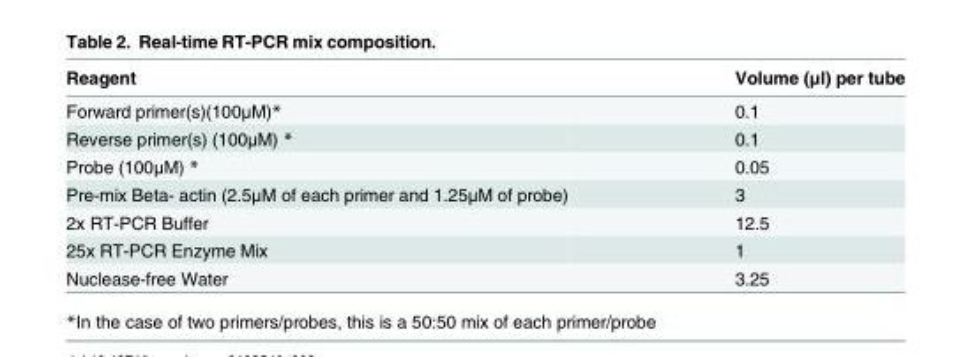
<table><thead><tr><td>Reagent</td><td>Volume (μl) per tube</td></tr></thead><tbody><tr><td>Forward primer(s)(100μM)*</td><td>0.1</td></tr><tr><td>Reverse primer(s) (100μM) *</td><td>0.1</td></tr><tr><td>Probe (100μM) *</td><td>0.05</td></tr><tr><td>Pre-mix Beta- actin (2.5μM of each primer and 1.25μM of probe)</td><td>3</td></tr><tr><td>2x RT-PCR Buffer</td><td>12.5</td></tr><tr><td>25x RT-PCR Enzyme Mix</td><td>1</td></tr><tr><td>Nuclease-free Water</td><td>3.25</td></tr></tbody></table>